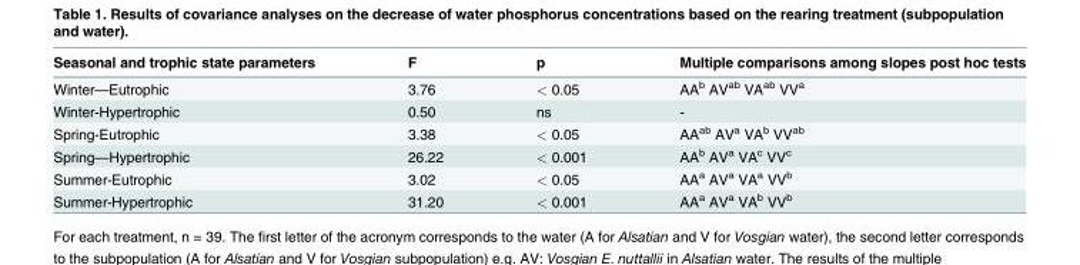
<table><thead><tr><td>Seasonal and trophic state parameters</td><td>F</td><td>p</td><td>Multiple comparisons among slopes post hoc tests</td></tr></thead><tbody><tr><td>Winter—Eutrophic</td><td>3.76</td><td>&lt; 0.05</td><td>AA<sup>b</sup> AV<sup>ab</sup> VA<sup>ab</sup> VV<sup>a</sup></td></tr><tr><td>Winter-Hypertrophic</td><td>0.50</td><td>ns</td><td>-</td></tr><tr><td>Spring-Eutrophic</td><td>3.38</td><td>&lt; 0.05</td><td>AA<sup>ab</sup> AV<sup>a</sup> VA<sup>b</sup> VV<sup>ab</sup></td></tr><tr><td>Spring—Hypertrophic</td><td>26.22</td><td>&lt; 0.001</td><td>AA<sup>b</sup> AV<sup>a</sup> VA<sup>c</sup> VV<sup>c</sup></td></tr><tr><td>Summer-Eutrophic</td><td>3.02</td><td>&lt; 0.05</td><td>AA<sup>a</sup> AV<sup>a</sup> VA<sup>a</sup> VV<sup>b</sup></td></tr><tr><td>Summer-Hypertrophic</td><td>31.20</td><td>&lt; 0.001</td><td>AA<sup>a</sup> AV<sup>a</sup> VA<sup>b</sup> VV<sup>b</sup></td></tr></tbody></table>